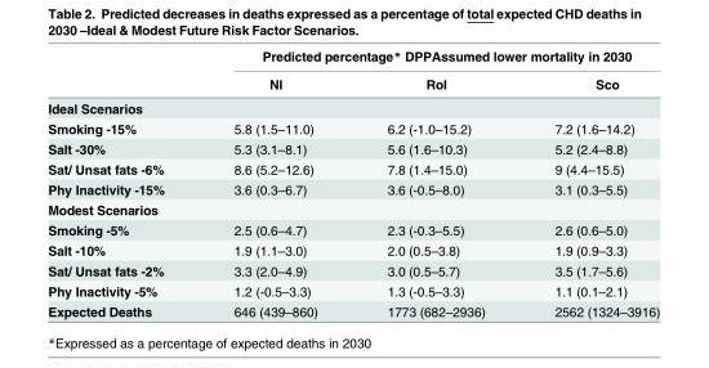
<table><thead><tr><td rowspan="2"></td><td colspan="3">Predicted percentage* DPPAssumed lower mortality in 2030</td></tr><tr><td>NI</td><td>RoI</td><td>Sco</td></tr></thead><tbody><tr><td colspan="4">Ideal Scenarios</td></tr><tr><td>Smoking -15%</td><td>5.8 (1.5–11.0)</td><td>6.2 (-1.0–15.2)</td><td>7.2 (1.6–14.2)</td></tr><tr><td>Salt -30%</td><td>5.3 (3.1–8.1)</td><td>5.6 (1.6–10.3)</td><td>5.2 (2.4–8.8)</td></tr><tr><td>Sat/ Unsat fats -6%</td><td>8.6 (5.2–12.6)</td><td>7.8 (1.4–15.0)</td><td>9 (4.4–15.5)</td></tr><tr><td>Phy Inactivity -15%</td><td>3.6 (0.3–6.7)</td><td>3.6 (-0.5–8.0)</td><td>3.1 (0.3–5.5)</td></tr><tr><td colspan="4">Modest Scenarios</td></tr><tr><td>Smoking -5%</td><td>2.5 (0.6–4.7)</td><td>2.3 (-0.3–5.5)</td><td>2.6 (0.6–5.0)</td></tr><tr><td>Salt -10%</td><td>1.9 (1.1–3.0)</td><td>2.0 (0.5–3.8)</td><td>1.9 (0.9–3.3)</td></tr><tr><td>Sat/ Unsat fats -2%</td><td>3.3 (2.0–4.9)</td><td>3.0 (0.5–5.7)</td><td>3.5 (1.7–5.6)</td></tr><tr><td>Phy Inactivity -5%</td><td>1.2 (-0.5–3.3)</td><td>1.3 (-0.5–3.3)</td><td>1.1 (0.1–2.1)</td></tr><tr><td>Expected Deaths</td><td>646 (439–860)</td><td>1773 (682–2936)</td><td>2562 (1324–3916)</td></tr></tbody></table>